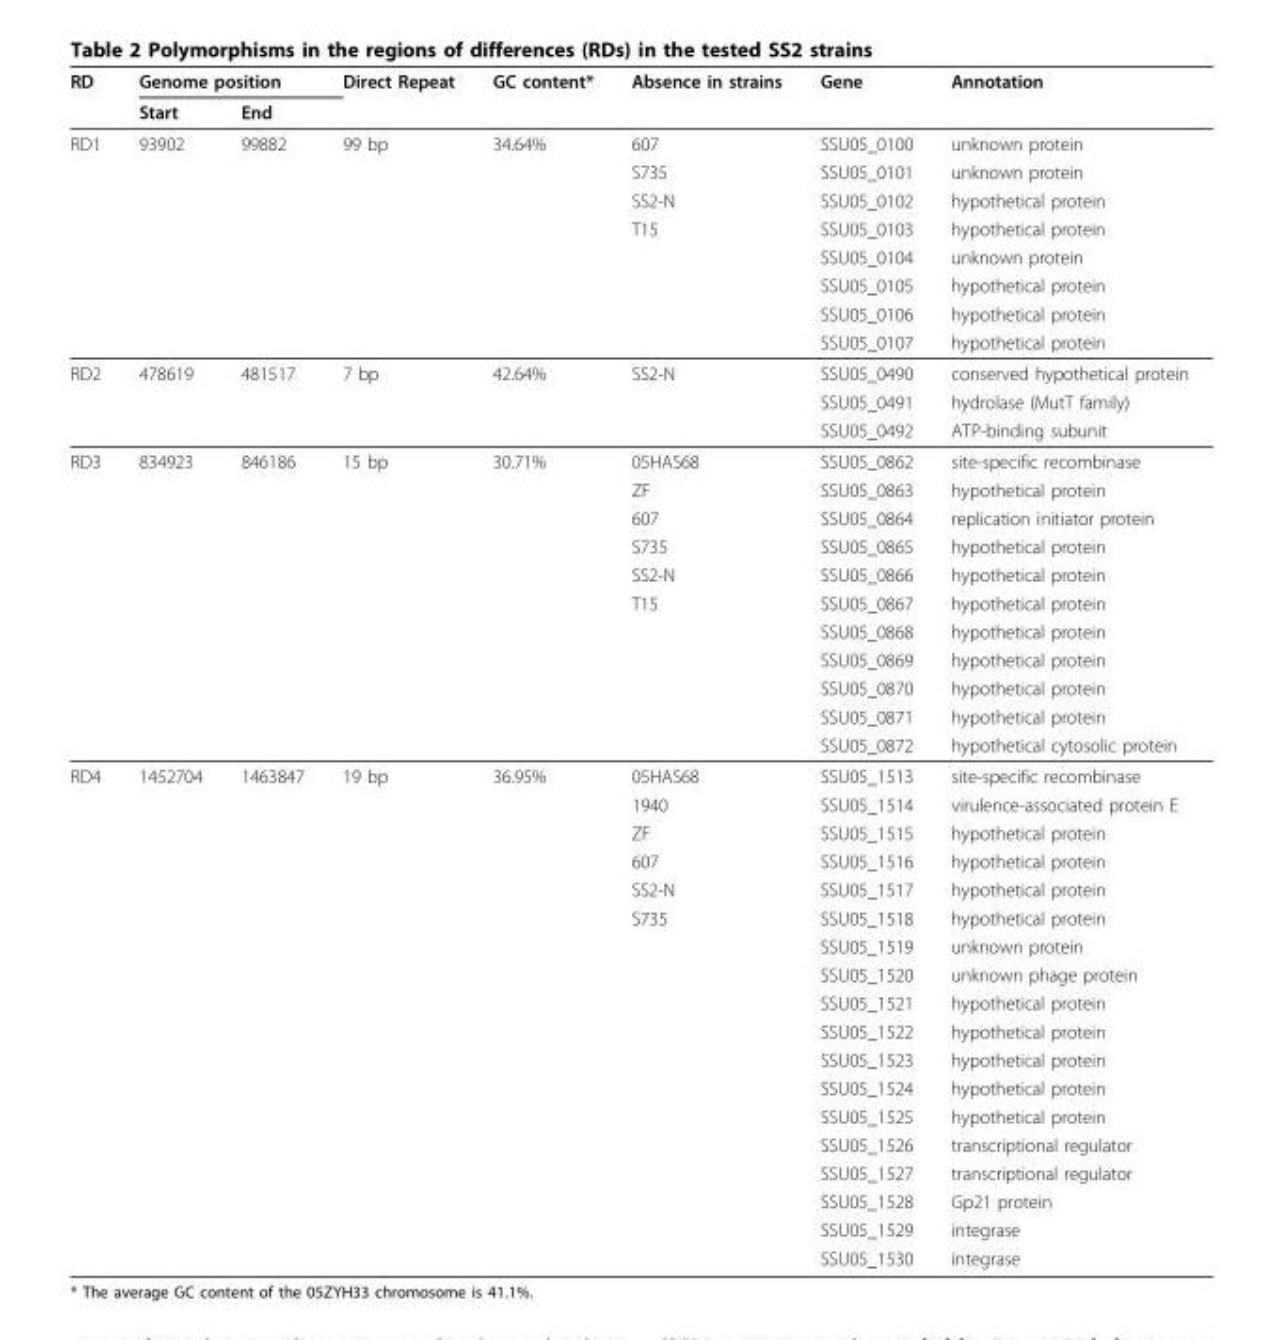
<table><thead><tr><td rowspan="2">RD</td><td colspan="2">Genome position</td><td rowspan="2">Direct Repeat</td><td rowspan="2">GC content*</td><td rowspan="2">Absence in strains</td><td rowspan="2">Gene</td><td rowspan="2">Annotation</td></tr><tr><td>Start</td><td>End</td></tr></thead><tbody><tr><td rowspan="8">RD1</td><td>93902</td><td>99882</td><td>99 bp</td><td>34.64%</td><td>607</td><td>SSU05_0100</td><td>unknown protein</td></tr><tr><td></td><td></td><td></td><td></td><td>S735</td><td>SSU05_0101</td><td>unknown protein</td></tr><tr><td></td><td></td><td></td><td></td><td>SS2-N</td><td>SSU05_0102</td><td>hypothetical protein</td></tr><tr><td></td><td></td><td></td><td></td><td>T15</td><td>SSU05_0103</td><td>hypothetical protein</td></tr><tr><td></td><td></td><td></td><td></td><td></td><td>SSU05_0104</td><td>unknown protein</td></tr><tr><td></td><td></td><td></td><td></td><td></td><td>SSU05_0105</td><td>hypothetical protein</td></tr><tr><td></td><td></td><td></td><td></td><td></td><td>SSU05_0106</td><td>hypothetical protein</td></tr><tr><td></td><td></td><td></td><td></td><td></td><td>SSU05_0107</td><td>hypothetical protein</td></tr><tr><td rowspan="3">RD2</td><td>478619</td><td>481517</td><td>7 bp</td><td>42.64%</td><td>SS2-N</td><td>SSU05_0490</td><td>conserved hypothetical protein</td></tr><tr><td></td><td></td><td></td><td></td><td></td><td>SSU05_0491</td><td>hydrolase (MutT family)</td></tr><tr><td></td><td></td><td></td><td></td><td></td><td>SSU05_0492</td><td>ATP-binding subunit</td></tr><tr><td rowspan="11">RD3</td><td>834923</td><td>846186</td><td>15 bp</td><td>30.71%</td><td>05HAS68</td><td>SSU05_0862</td><td>site-specific recombinase</td></tr><tr><td></td><td></td><td></td><td></td><td>ZF</td><td>SSU05_0863</td><td>hypothetical protein</td></tr><tr><td></td><td></td><td></td><td></td><td>607</td><td>SSU05_0864</td><td>replication initiator protein</td></tr><tr><td></td><td></td><td></td><td></td><td>S735</td><td>SSU05_0865</td><td>hypothetical protein</td></tr><tr><td></td><td></td><td></td><td></td><td>SS2-N</td><td>SSU05_0866</td><td>hypothetical protein</td></tr><tr><td></td><td></td><td></td><td></td><td>T15</td><td>SSU05_0867</td><td>hypothetical protein</td></tr><tr><td></td><td></td><td></td><td></td><td></td><td>SSU05_0868</td><td>hypothetical protein</td></tr><tr><td></td><td></td><td></td><td></td><td></td><td>SSU05_0869</td><td>hypothetical protein</td></tr><tr><td></td><td></td><td></td><td></td><td></td><td>SSU05_0870</td><td>hypothetical protein</td></tr><tr><td></td><td></td><td></td><td></td><td></td><td>SSU05_0871</td><td>hypothetical protein</td></tr><tr><td></td><td></td><td></td><td></td><td></td><td>SSU05_0872</td><td>hypothetical cytosolic protein</td></tr><tr><td rowspan="18">RD4</td><td>1452704</td><td>1463847</td><td>19 bp</td><td>36.95%</td><td>05HAS68</td><td>SSU05_1513</td><td>site-specific recombinase</td></tr><tr><td></td><td></td><td></td><td></td><td>1940</td><td>SSU05_1514</td><td>virulence-associated protein E</td></tr><tr><td></td><td></td><td></td><td></td><td>ZF</td><td>SSU05_1515</td><td>hypothetical protein</td></tr><tr><td></td><td></td><td></td><td></td><td>607</td><td>SSU05_1516</td><td>hypothetical protein</td></tr><tr><td></td><td></td><td></td><td></td><td>SS2-N</td><td>SSU05_1517</td><td>hypothetical protein</td></tr><tr><td></td><td></td><td></td><td></td><td>S735</td><td>SSU05_1518</td><td>hypothetical protein</td></tr><tr><td></td><td></td><td></td><td></td><td></td><td>SSU05_1519</td><td>unknown protein</td></tr><tr><td></td><td></td><td></td><td></td><td></td><td>SSU05_1520</td><td>unknown phage protein</td></tr><tr><td></td><td></td><td></td><td></td><td></td><td>SSU05_1521</td><td>hypothetical protein</td></tr><tr><td></td><td></td><td></td><td></td><td></td><td>SSU05_1522</td><td>hypothetical protein</td></tr><tr><td></td><td></td><td></td><td></td><td></td><td>SSU05_1523</td><td>hypothetical protein</td></tr><tr><td></td><td></td><td></td><td></td><td></td><td>SSU05_1524</td><td>hypothetical protein</td></tr><tr><td></td><td></td><td></td><td></td><td></td><td>SSU05_1525</td><td>hypothetical protein</td></tr><tr><td></td><td></td><td></td><td></td><td></td><td>SSU05_1526</td><td>transcriptional regulator</td></tr><tr><td></td><td></td><td></td><td></td><td></td><td>SSU05_1527</td><td>transcriptional regulator</td></tr><tr><td></td><td></td><td></td><td></td><td></td><td>SSU05_1528</td><td>Gp21 protein</td></tr><tr><td></td><td></td><td></td><td></td><td></td><td>SSU05_1529</td><td>integrase</td></tr><tr><td></td><td></td><td></td><td></td><td></td><td>SSU05_1530</td><td>integrase</td></tr></tbody></table>